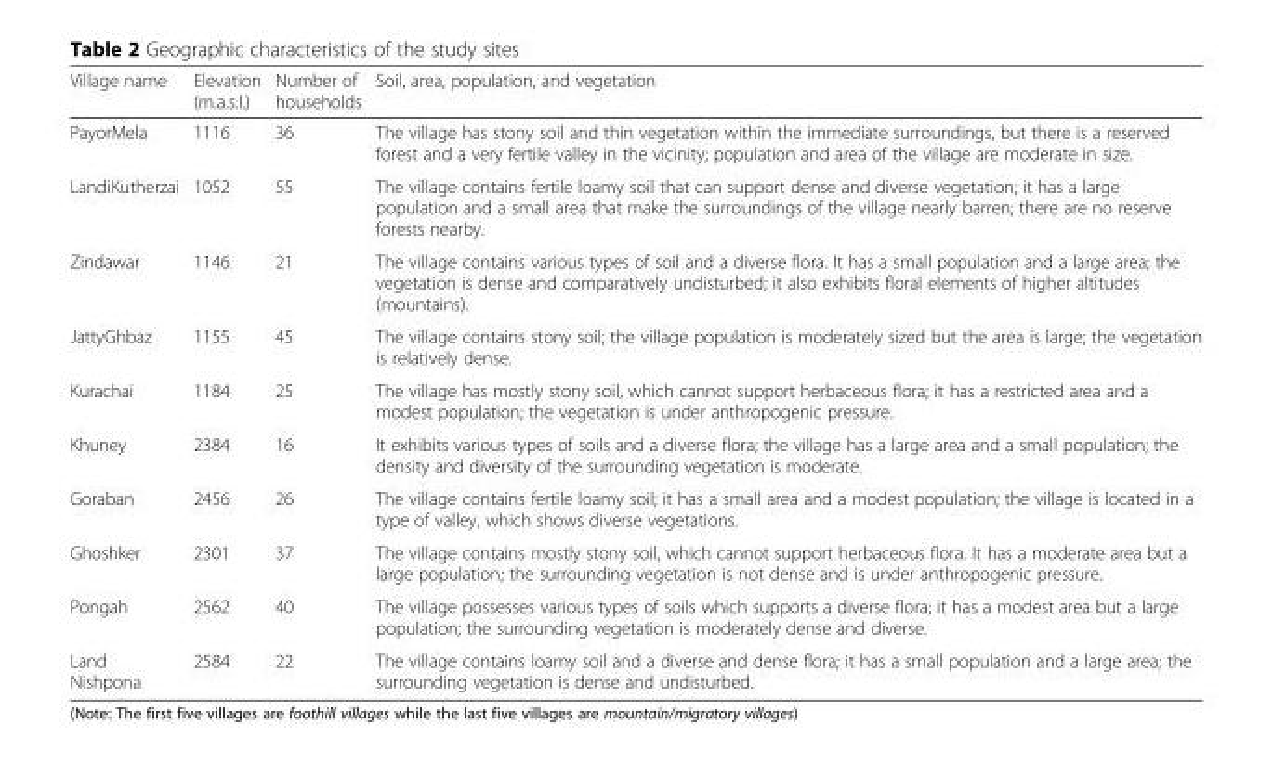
<table><thead><tr><td>Village name</td><td>Elevation (m.a.s.l.)</td><td>Number of households</td><td>Soil, area, population, and vegetation</td></tr></thead><tbody><tr><td>PayorMela</td><td>1116</td><td>36</td><td>The village has stony soil and thin vegetation within the immediate surroundings, but there is a reserved forest and a very fertile valley in the vicinity; population and area of the village are moderate in size.</td></tr><tr><td>LandiKutherzai</td><td>1052</td><td>55</td><td>The village contains fertile loamy soil that can support dense and diverse vegetation; it has a large population and a small area that make the surroundings of the village nearly barren; there are no reserve forests nearby.</td></tr><tr><td>Zindawar</td><td>1146</td><td>21</td><td>The village contains various types of soil and a diverse flora. It has a small population and a large area; the vegetation is dense and comparatively undisturbed; it also exhibits floral elements of higher altitudes (mountains).</td></tr><tr><td>JattyGhbaz</td><td>1155</td><td>45</td><td>The village contains stony soil; the village population is moderately sized but the area is large; the vegetation is relatively dense.</td></tr><tr><td>Kurachai</td><td>1184</td><td>25</td><td>The village has mostly stony soil, which cannot support herbaceous flora; it has a restricted area and a modest population; the vegetation is under anthropogenic pressure.</td></tr><tr><td>Khuney</td><td>2384</td><td>16</td><td>It exhibits various types of soils and a diverse flora; the village has a large area and a small population; the density and diversity of the surrounding vegetation is moderate.</td></tr><tr><td>Goraban</td><td>2456</td><td>26</td><td>The village contains fertile loamy soil; it has a small area and a modest population; the village is located in a type of valley, which shows diverse vegetations.</td></tr><tr><td>Ghoshker</td><td>2301</td><td>37</td><td>The village contains mostly stony soil, which cannot support herbaceous flora. It has a moderate area but a large population; the surrounding vegetation is not dense and is under anthropogenic pressure.</td></tr><tr><td>Pongah</td><td>2562</td><td>40</td><td>The village possesses various types of soils which supports a diverse flora; it has a modest area but a large population; the surrounding vegetation is moderately dense and diverse.</td></tr><tr><td>Land Nishpona</td><td>2584</td><td>22</td><td>The village contains loamy soil and a diverse and dense flora; it has a small population and a large area; the surrounding vegetation is dense and undisturbed.</td></tr></tbody></table>